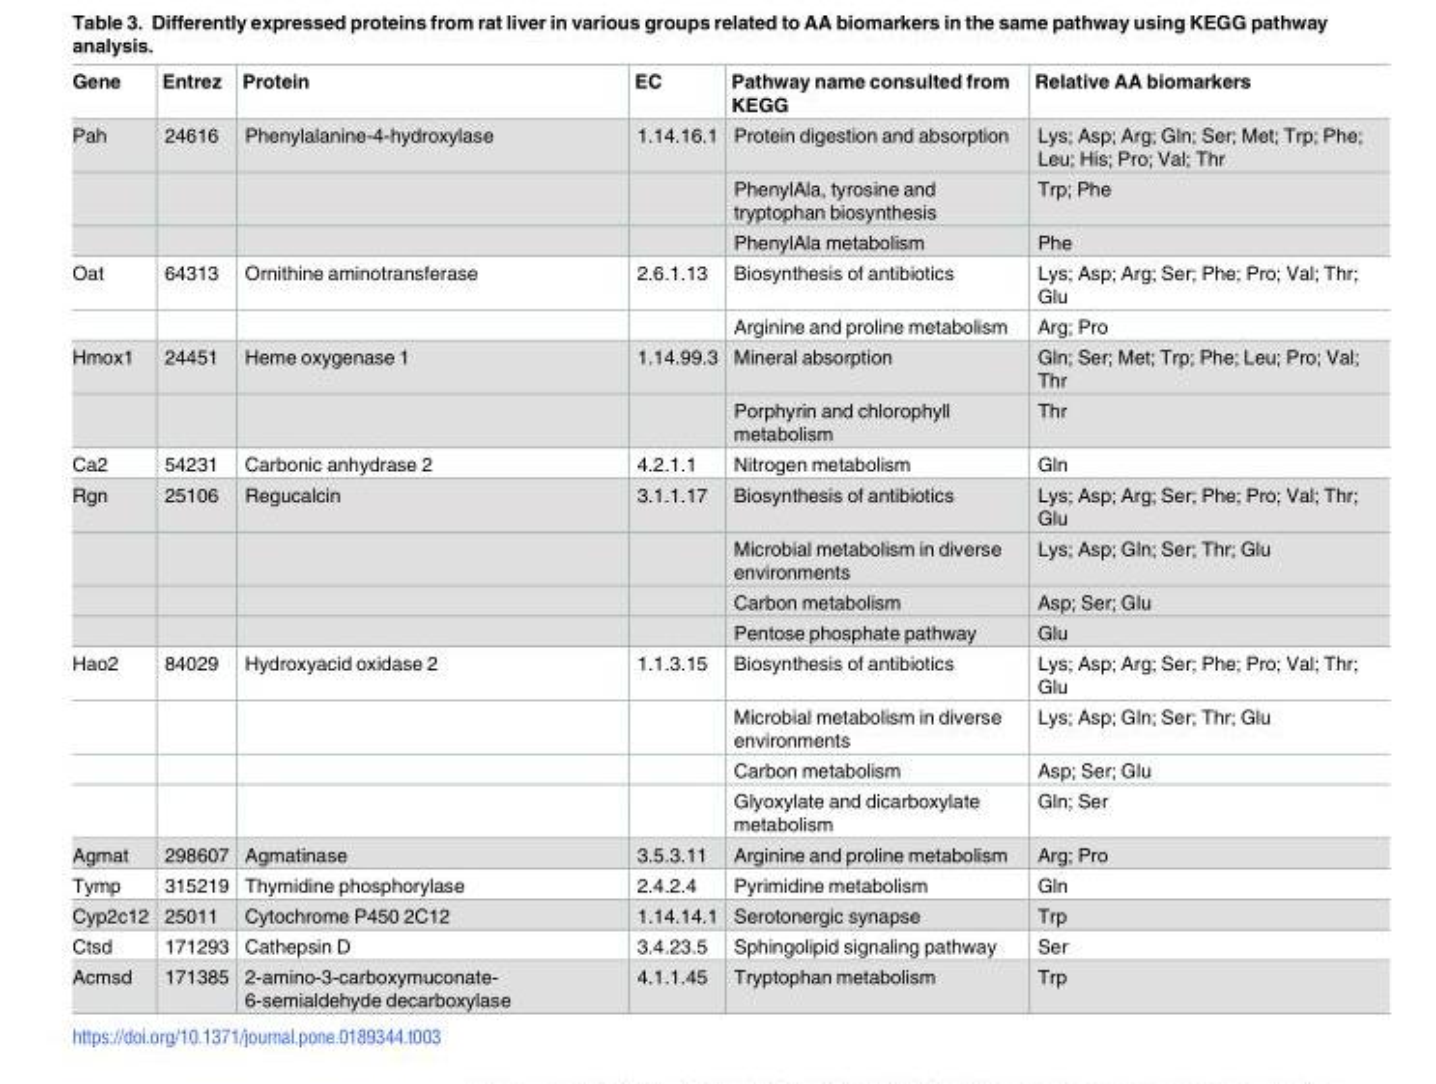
<table><thead><tr><td>Gene</td><td>Entrez</td><td>Protein</td><td>EC</td><td>Pathway name consulted from KEGG</td><td>Relative AA biomarkers</td></tr></thead><tbody><tr><td rowspan="3">Pah</td><td>24616</td><td>Phenylalanine-4-hydroxylase</td><td>1.14.16.1</td><td>Protein digestion and absorption</td><td>Lys; Asp; Arg; Gln; Ser; Met; Trp; Phe; Leu; His; Pro; Val; Thr</td></tr><tr><td></td><td></td><td></td><td>PhenylAla, tyrosine and tryptophan biosynthesis</td><td>Trp; Phe</td></tr><tr><td></td><td></td><td></td><td>PhenylAla metabolism</td><td>Phe</td></tr><tr><td rowspan="2">Oat</td><td>64313</td><td>Ornithine aminotransferase</td><td>2.6.1.13</td><td>Biosynthesis of antibiotics</td><td>Lys; Asp; Arg; Ser; Phe; Pro; Val; Thr; Glu</td></tr><tr><td></td><td></td><td></td><td>Arginine and proline metabolism</td><td>Arg; Pro</td></tr><tr><td rowspan="2">Hmox1</td><td>24451</td><td>Heme oxygenase 1</td><td>1.14.99.3</td><td>Mineral absorption</td><td>Gln; Ser; Met; Trp; Phe; Leu; Pro; Val; Thr</td></tr><tr><td></td><td></td><td></td><td>Porphyrin and chlorophyll metabolism</td><td>Thr</td></tr><tr><td>Ca2</td><td>54231</td><td>Carbonic anhydrase 2</td><td>4.2.1.1</td><td>Nitrogen metabolism</td><td>Gln</td></tr><tr><td rowspan="4">Rgn</td><td>25106</td><td>Regucalcin</td><td>3.1.1.17</td><td>Biosynthesis of antibiotics</td><td>Lys; Asp; Arg; Ser; Phe; Pro; Val; Thr; Glu</td></tr><tr><td></td><td></td><td></td><td>Microbial metabolism in diverse environments</td><td>Lys; Asp; Gln; Ser; Thr; Glu</td></tr><tr><td></td><td></td><td></td><td>Carbon metabolism</td><td>Asp; Ser; Glu</td></tr><tr><td></td><td></td><td></td><td>Pentose phosphate pathway</td><td>Glu</td></tr><tr><td rowspan="4">Hao2</td><td>84029</td><td>Hydroxyacid oxidase 2</td><td>1.1.3.15</td><td>Biosynthesis of antibiotics</td><td>Lys; Asp; Arg; Ser; Phe; Pro; Val; Thr; Glu</td></tr><tr><td></td><td></td><td></td><td>Microbial metabolism in diverse environments</td><td>Lys; Asp; Gln; Ser; Thr; Glu</td></tr><tr><td></td><td></td><td></td><td>Carbon metabolism</td><td>Asp; Ser; Glu</td></tr><tr><td></td><td></td><td></td><td>Glyoxylate and dicarboxylate metabolism</td><td>Gln; Ser</td></tr><tr><td>Agmat</td><td>298607</td><td>Agmatinase</td><td>3.5.3.11</td><td>Arginine and proline metabolism</td><td>Arg; Pro</td></tr><tr><td>Tymp</td><td>315219</td><td>Thymidine phosphorylase</td><td>2.4.2.4</td><td>Pyrimidine metabolism</td><td>Gln</td></tr><tr><td>Cyp2c12</td><td>25011</td><td>Cytochrome P450 2C12</td><td>1.14.14.1</td><td>Serotonergic synapse</td><td>Trp</td></tr><tr><td>Ctsd</td><td>171293</td><td>Cathepsin D</td><td>3.4.23.5</td><td>Sphingolipid signaling pathway</td><td>Ser</td></tr><tr><td>Acmsd</td><td>171385</td><td>2-amino-3-carboxymuconate- 6-semialdehyde decarboxylase</td><td>4.1.1.45</td><td>Tryptophan metabolism</td><td>Trp</td></tr></tbody></table>